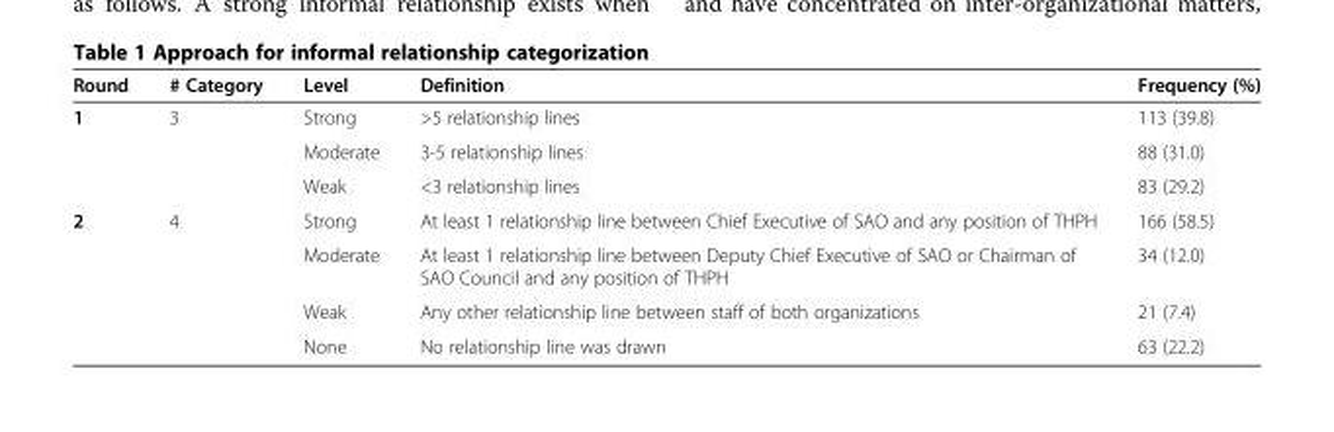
<table><thead><tr><td>Round</td><td># Category</td><td>Level</td><td>Definition</td><td>Frequency (%)</td></tr></thead><tbody><tr><td rowspan="3">1</td><td>3</td><td>Strong</td><td>&gt;5 relationship lines</td><td>113 (39.8)</td></tr><tr><td></td><td>Moderate</td><td>3-5 relationship lines</td><td>88 (31.0)</td></tr><tr><td></td><td>Weak</td><td>&lt;3 relationship lines</td><td>83 (29.2)</td></tr><tr><td rowspan="4">2</td><td>4</td><td>Strong</td><td>At least 1 relationship line between Chief Executive of SAO and any position of THPH</td><td>166 (58.5)</td></tr><tr><td></td><td>Moderate</td><td>At least 1 relationship line between Deputy Chief Executive of SAO or Chairman of SAO Council and any position of THPH</td><td>34 (12.0)</td></tr><tr><td></td><td>Weak</td><td>Any other relationship line between staff of both organizations</td><td>21 (7.4)</td></tr><tr><td></td><td>None</td><td>No relationship line was drawn</td><td>63 (22.2)</td></tr></tbody></table>